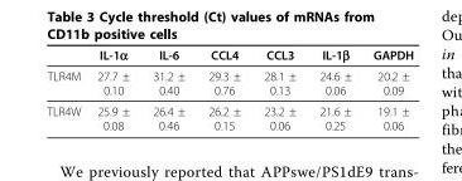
<table><thead><tr><td></td><td>IL-1α</td><td>IL-6</td><td>CCL4</td><td>CCL3</td><td>IL-1β</td><td>GAPDH</td></tr></thead><tbody><tr><td>TLR4M</td><td>27.7 ± 0.10</td><td>31.2 ± 0.40</td><td>29.3 ± 0.76</td><td>28.1 ± 0.13</td><td>24.6 ± 0.06</td><td>20.2 ± 0.09</td></tr><tr><td>TLR4W</td><td>25.9 ± 0.08</td><td>26.4 ± 0.46</td><td>26.2 ± 0.15</td><td>23.2 ± 0.06</td><td>21.6 ± 0.25</td><td>19.1 ± 0.06</td></tr></tbody></table>